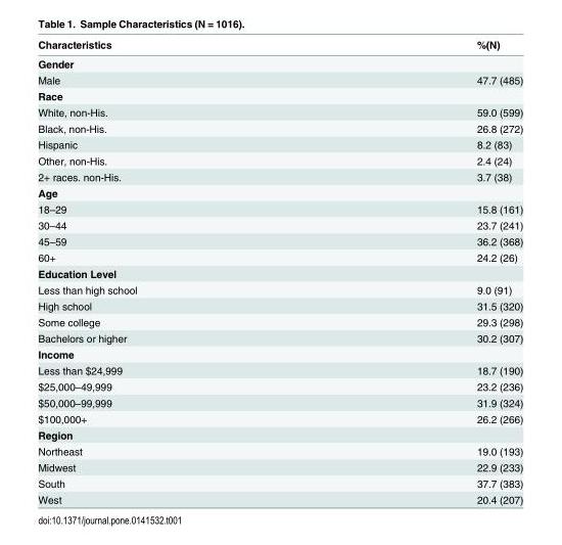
<table><thead><tr><td>Characteristics</td><td>%(N)</td></tr></thead><tbody><tr><td colspan="2">Gender</td></tr><tr><td>Male</td><td>47.7 (485)</td></tr><tr><td colspan="2">Race</td></tr><tr><td>White, non-His.</td><td>59.0 (599)</td></tr><tr><td>Black, non-His.</td><td>26.8 (272)</td></tr><tr><td>Hispanic</td><td>8.2 (83)</td></tr><tr><td>Other, non-His.</td><td>2.4 (24)</td></tr><tr><td>2+ races. non-His.</td><td>3.7 (38)</td></tr><tr><td colspan="2">Age</td></tr><tr><td>18–29</td><td>15.8 (161)</td></tr><tr><td>30–44</td><td>23.7 (241)</td></tr><tr><td>45–59</td><td>36.2 (368)</td></tr><tr><td>60+</td><td>24.2 (26)</td></tr><tr><td colspan="2">Education Level</td></tr><tr><td>Less than high school</td><td>9.0 (91)</td></tr><tr><td>High school</td><td>31.5 (320)</td></tr><tr><td>Some college</td><td>29.3 (298)</td></tr><tr><td>Bachelors or higher</td><td>30.2 (307)</td></tr><tr><td colspan="2">Income</td></tr><tr><td>Less than $24,999</td><td>18.7 (190)</td></tr><tr><td>$25,000–49,999</td><td>23.2 (236)</td></tr><tr><td>$50,000–99,999</td><td>31.9 (324)</td></tr><tr><td>$100,000+</td><td>26.2 (266)</td></tr><tr><td colspan="2">Region</td></tr><tr><td>Northeast</td><td>19.0 (193)</td></tr><tr><td>Midwest</td><td>22.9 (233)</td></tr><tr><td>South</td><td>37.7 (383)</td></tr><tr><td>West</td><td>20.4 (207)</td></tr></tbody></table>